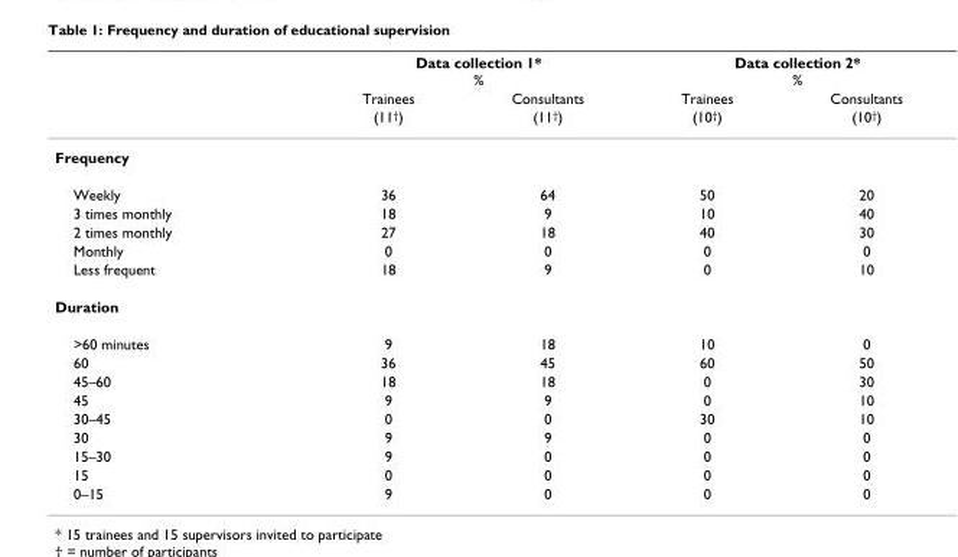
<table><thead><tr><td rowspan="3"></td><td colspan="2">Data collection 1* %</td><td colspan="2">Data collection 2* %</td></tr><tr><td rowspan="2">Trainees (11<sup>†</sup>)</td><td rowspan="2">Consultants (11<sup>†</sup>)</td><td rowspan="2">Trainees (10<sup>†</sup>)</td><td rowspan="2">Consultants (10<sup>†</sup>)</td></tr><tr></tr></thead><tbody><tr><td colspan="5">Frequency</td></tr><tr><td>Weekly</td><td>36</td><td>64</td><td>50</td><td>20</td></tr><tr><td>3 times monthly</td><td>18</td><td>9</td><td>10</td><td>40</td></tr><tr><td>2 times monthly</td><td>27</td><td>18</td><td>40</td><td>30</td></tr><tr><td>Monthly</td><td>0</td><td>0</td><td>0</td><td>0</td></tr><tr><td>Less frequent</td><td>18</td><td>9</td><td>0</td><td>10</td></tr><tr><td colspan="5">Duration</td></tr><tr><td>&gt;60 minutes</td><td>9</td><td>18</td><td>10</td><td>0</td></tr><tr><td>60</td><td>36</td><td>45</td><td>60</td><td>50</td></tr><tr><td>45–60</td><td>18</td><td>18</td><td>0</td><td>30</td></tr><tr><td>45</td><td>9</td><td>9</td><td>0</td><td>10</td></tr><tr><td>30–45</td><td>0</td><td>0</td><td>30</td><td>10</td></tr><tr><td>30</td><td>9</td><td>9</td><td>0</td><td>0</td></tr><tr><td>15–30</td><td>9</td><td>0</td><td>0</td><td>0</td></tr><tr><td>15</td><td>0</td><td>0</td><td>0</td><td>0</td></tr><tr><td>0–15</td><td>9</td><td>0</td><td>0</td><td>0</td></tr></tbody></table>